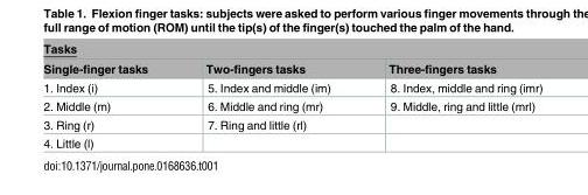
<table><thead><tr><td colspan="3">Tasks</td></tr><tr><td>Single-finger tasks</td><td>Two-fingers tasks</td><td>Three-fingers tasks</td></tr></thead><tbody><tr><td>1. Index (i)</td><td>5. Index and middle (im)</td><td>8. Index, middle and ring (imr)</td></tr><tr><td>2. Middle (m)</td><td>6. Middle and ring (mr)</td><td>9. Middle, ring and little (mrl)</td></tr><tr><td>3. Ring (r)</td><td>7. Ring and little (rl)</td><td></td></tr><tr><td>4. Little (l)</td><td></td><td></td></tr></tbody></table>